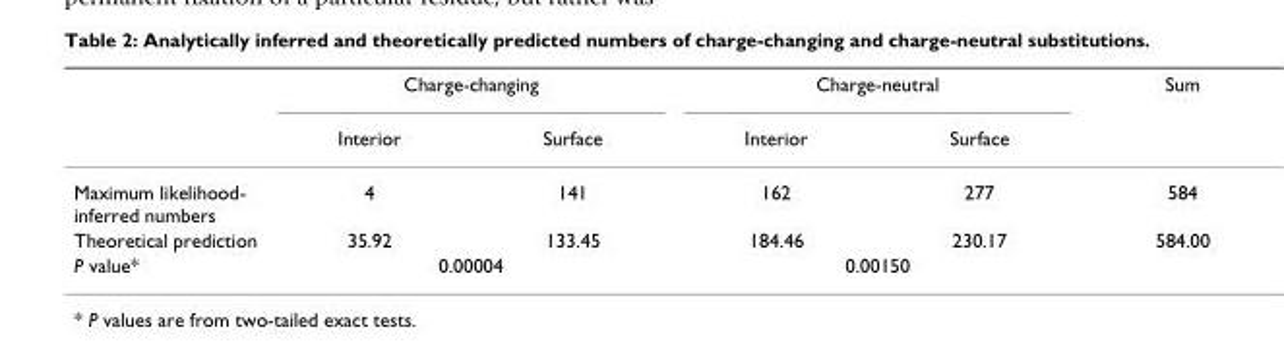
<table><thead><tr><td rowspan="2"></td><td colspan="2">Charge-changing</td><td colspan="2">Charge-neutral</td><td rowspan="2">Sum</td></tr><tr><td>Interior</td><td>Surface</td><td>Interior</td><td>Surface</td></tr></thead><tbody><tr><td>Maximum likelihood- inferred numbers</td><td>4</td><td>141</td><td>162</td><td>277</td><td>584</td></tr><tr><td>Theoretical prediction</td><td>35.92</td><td>133.45</td><td>184.46</td><td>230.17</td><td>584.00</td></tr><tr><td>P value*</td><td colspan="2">0.00004</td><td colspan="2">0.00150</td><td></td></tr></tbody></table>